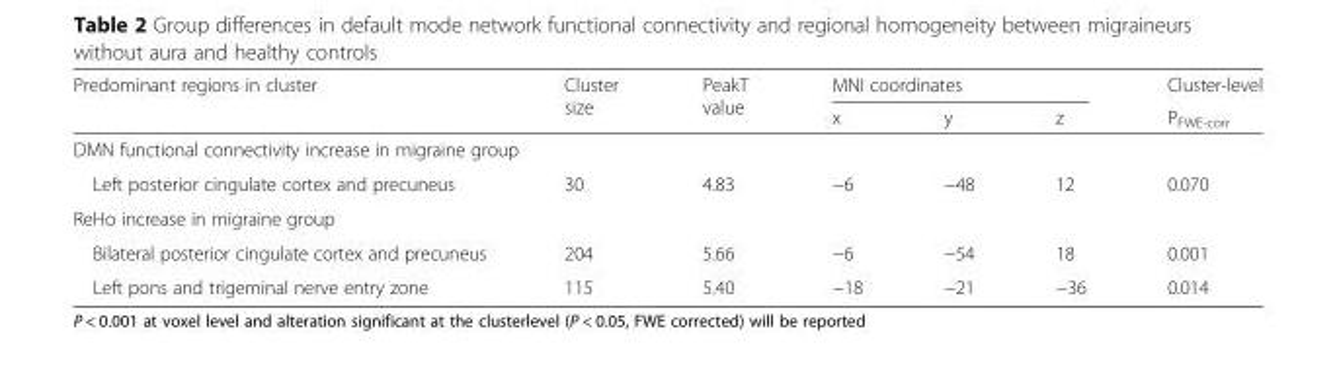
<table><thead><tr><td rowspan="2">Predominant regions in cluster</td><td rowspan="2">Cluster size</td><td rowspan="2">PeakT value</td><td colspan="3">MNI coordinates</td><td rowspan="2">Cluster-level P<sub>FWE-corr</sub></td></tr><tr><td>x</td><td>y</td><td>z</td></tr></thead><tbody><tr><td colspan="7">DMN functional connectivity increase in migraine group</td></tr><tr><td>Left posterior cingulate cortex and precuneus</td><td>30</td><td>4.83</td><td>−6</td><td>−48</td><td>12</td><td>0.070</td></tr><tr><td colspan="7">ReHo increase in migraine group</td></tr><tr><td>Bilateral posterior cingulate cortex and precuneus</td><td>204</td><td>5.66</td><td>−6</td><td>−54</td><td>18</td><td>0.001</td></tr><tr><td>Left pons and trigeminal nerve entry zone</td><td>115</td><td>5.40</td><td>−18</td><td>−21</td><td>−36</td><td>0.014</td></tr></tbody></table>